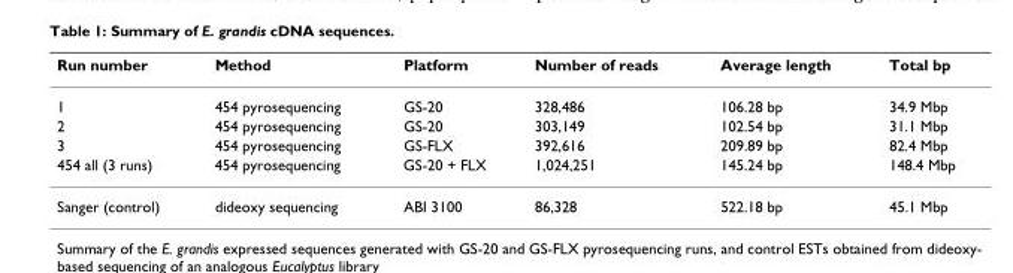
<table><thead><tr><td>Run number</td><td>Method</td><td>Platform</td><td>Number of reads</td><td>Average length</td><td>Total bp</td></tr></thead><tbody><tr><td>1</td><td>454 pyrosequencing</td><td>GS-20</td><td>328,486</td><td>106.28 bp</td><td>34.9 Mbp</td></tr><tr><td>2</td><td>454 pyrosequencing</td><td>GS-20</td><td>303,149</td><td>102.54 bp</td><td>31.1 Mbp</td></tr><tr><td>3</td><td>454 pyrosequencing</td><td>GS-FLX</td><td>392,616</td><td>209.89 bp</td><td>82.4 Mbp</td></tr><tr><td>454 all (3 runs)</td><td>454 pyrosequencing</td><td>GS-20 + FLX</td><td>1,024,251</td><td>145.24 bp</td><td>148.4 Mbp</td></tr><tr><td>Sanger (control)</td><td>dideoxy sequencing</td><td>ABI 3100</td><td>86,328</td><td>522.18 bp</td><td>45.1 Mbp</td></tr></tbody></table>